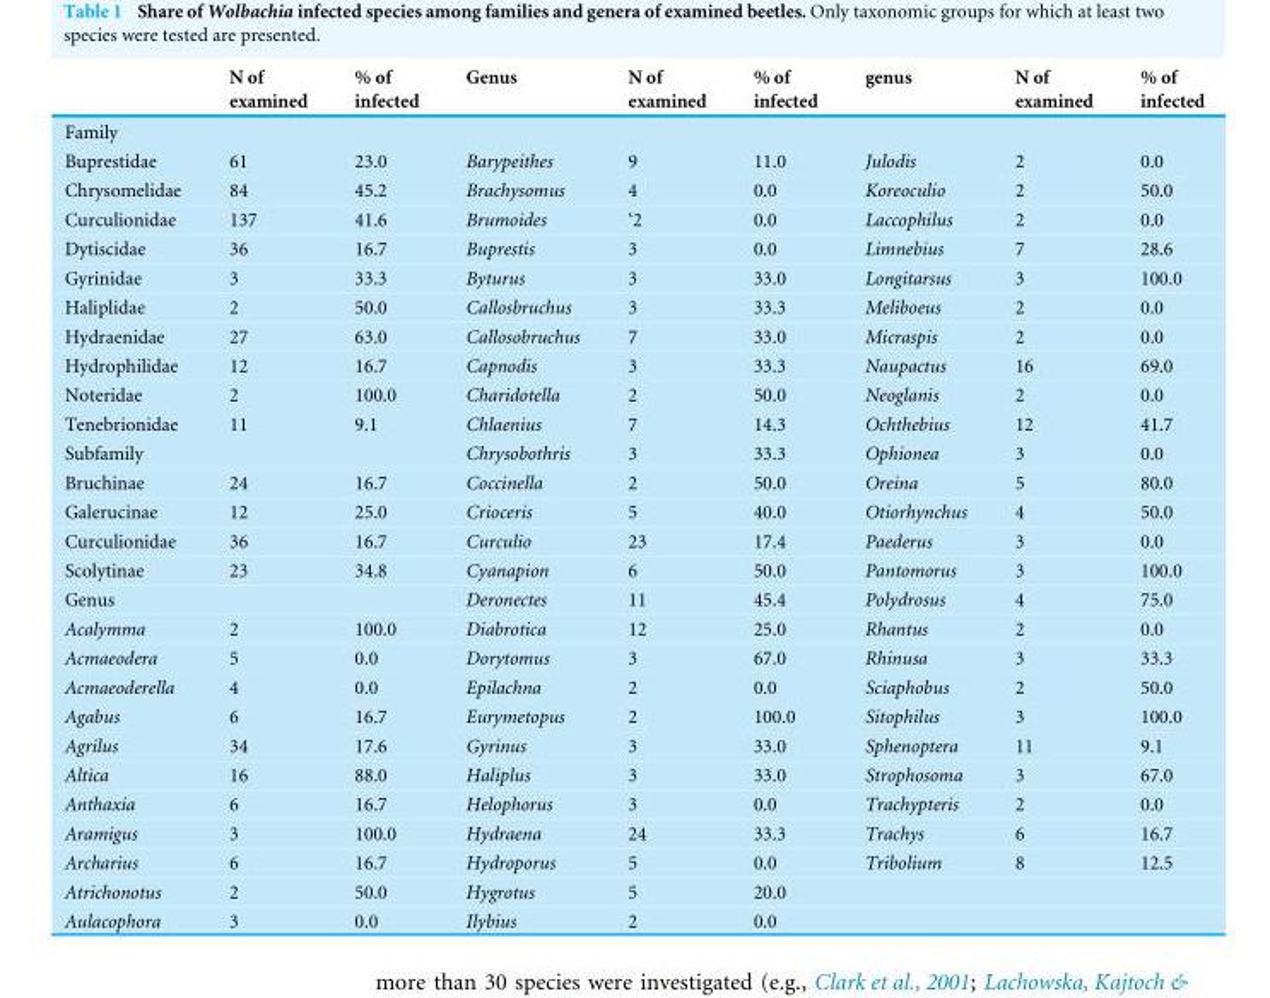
<table><thead><tr><td></td><td>N of examined</td><td>% of infected</td><td>Genus</td><td>N of examined</td><td>% of infected</td><td>genus</td><td>N of examined</td><td>% of infected</td></tr></thead><tbody><tr><td colspan="9">Family</td></tr><tr><td>Buprestidae</td><td>61</td><td>23.0</td><td>Barypeithes</td><td>9</td><td>11.0</td><td>Julodis</td><td>2</td><td>0.0</td></tr><tr><td>Chrysomelidae</td><td>84</td><td>45.2</td><td>Brachysomus</td><td>4</td><td>0.0</td><td>Koreoculio</td><td>2</td><td>50.0</td></tr><tr><td>Curculionidae</td><td>137</td><td>41.6</td><td>Brumoides</td><td>‘2</td><td>0.0</td><td>Laccophilus</td><td>2</td><td>0.0</td></tr><tr><td>Dytiscidae</td><td>36</td><td>16.7</td><td>Buprestis</td><td>3</td><td>0.0</td><td>Limnebius</td><td>7</td><td>28.6</td></tr><tr><td>Gyrinidae</td><td>3</td><td>33.3</td><td>Byturus</td><td>3</td><td>33.0</td><td>Longitarsus</td><td>3</td><td>100.0</td></tr><tr><td>Haliplidae</td><td>2</td><td>50.0</td><td>Callosbruchus</td><td>3</td><td>33.3</td><td>Meliboeus</td><td>2</td><td>0.0</td></tr><tr><td>Hydraenidae</td><td>27</td><td>63.0</td><td>Callosobruchus</td><td>7</td><td>33.0</td><td>Micraspis</td><td>2</td><td>0.0</td></tr><tr><td>Hydrophilidae</td><td>12</td><td>16.7</td><td>Capnodis</td><td>3</td><td>33.3</td><td>Naupactus</td><td>16</td><td>69.0</td></tr><tr><td>Noteridae</td><td>2</td><td>100.0</td><td>Charidotella</td><td>2</td><td>50.0</td><td>Neoglanis</td><td>2</td><td>0.0</td></tr><tr><td>Tenebrionidae</td><td>11</td><td>9.1</td><td>Chlaenius</td><td>7</td><td>14.3</td><td>Ochthebius</td><td>12</td><td>41.7</td></tr><tr><td>Subfamily</td><td></td><td></td><td>Chrysobothris</td><td>3</td><td>33.3</td><td>Ophionea</td><td>3</td><td>0.0</td></tr><tr><td>Bruchinae</td><td>24</td><td>16.7</td><td>Coccinella</td><td>2</td><td>50.0</td><td>Oreina</td><td>5</td><td>80.0</td></tr><tr><td>Galerucinae</td><td>12</td><td>25.0</td><td>Crioceris</td><td>5</td><td>40.0</td><td>Otiorhynchus</td><td>4</td><td>50.0</td></tr><tr><td>Curculionidae</td><td>36</td><td>16.7</td><td>Curculio</td><td>23</td><td>17.4</td><td>Paederus</td><td>3</td><td>0.0</td></tr><tr><td>Scolytinae</td><td>23</td><td>34.8</td><td>Cyanapion</td><td>6</td><td>50.0</td><td>Pantomorus</td><td>3</td><td>100.0</td></tr><tr><td>Genus</td><td></td><td></td><td>Deronectes</td><td>11</td><td>45.4</td><td>Polydrosus</td><td>4</td><td>75.0</td></tr><tr><td>Acalymma</td><td>2</td><td>100.0</td><td>Diabrotica</td><td>12</td><td>25.0</td><td>Rhantus</td><td>2</td><td>0.0</td></tr><tr><td>Acmaeodera</td><td>5</td><td>0.0</td><td>Dorytomus</td><td>3</td><td>67.0</td><td>Rhinusa</td><td>3</td><td>33.3</td></tr><tr><td>Acmaeoderella</td><td>4</td><td>0.0</td><td>Epilachna</td><td>2</td><td>0.0</td><td>Sciaphobus</td><td>2</td><td>50.0</td></tr><tr><td>Agabus</td><td>6</td><td>16.7</td><td>Eurymetopus</td><td>2</td><td>100.0</td><td>Sitophilus</td><td>3</td><td>100.0</td></tr><tr><td>Agrilus</td><td>34</td><td>17.6</td><td>Gyrinus</td><td>3</td><td>33.0</td><td>Sphenoptera</td><td>11</td><td>9.1</td></tr><tr><td>Altica</td><td>16</td><td>88.0</td><td>Haliplus</td><td>3</td><td>33.0</td><td>Strophosoma</td><td>3</td><td>67.0</td></tr><tr><td>Anthaxia</td><td>6</td><td>16.7</td><td>Helophorus</td><td>3</td><td>0.0</td><td>Trachypteris</td><td>2</td><td>0.0</td></tr><tr><td>Aramigus</td><td>3</td><td>100.0</td><td>Hydraena</td><td>24</td><td>33.3</td><td>Trachys</td><td>6</td><td>16.7</td></tr><tr><td>Archarius</td><td>6</td><td>16.7</td><td>Hydroporus</td><td>5</td><td>0.0</td><td>Tribolium</td><td>8</td><td>12.5</td></tr><tr><td>Atrichonotus</td><td>2</td><td>50.0</td><td>Hygrotus</td><td>5</td><td>20.0</td><td></td><td></td><td></td></tr><tr><td>Aulacophora</td><td>3</td><td>0.0</td><td>Ilybius</td><td>2</td><td>0.0</td><td></td><td></td><td></td></tr></tbody></table>